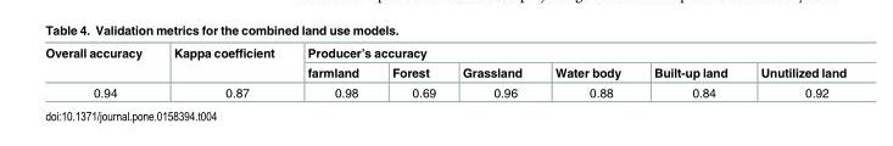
<table><thead><tr><td rowspan="2">Overall accuracy</td><td rowspan="2">Kappa coefficient</td><td colspan="6">Producer’s accuracy</td></tr><tr><td>farmland</td><td>Forest</td><td>Grassland</td><td>Water body</td><td>Built-up land</td><td>Unutilized land</td></tr></thead><tbody><tr><td>0.94</td><td>0.87</td><td>0.98</td><td>0.69</td><td>0.96</td><td>0.88</td><td>0.84</td><td>0.92</td></tr></tbody></table>